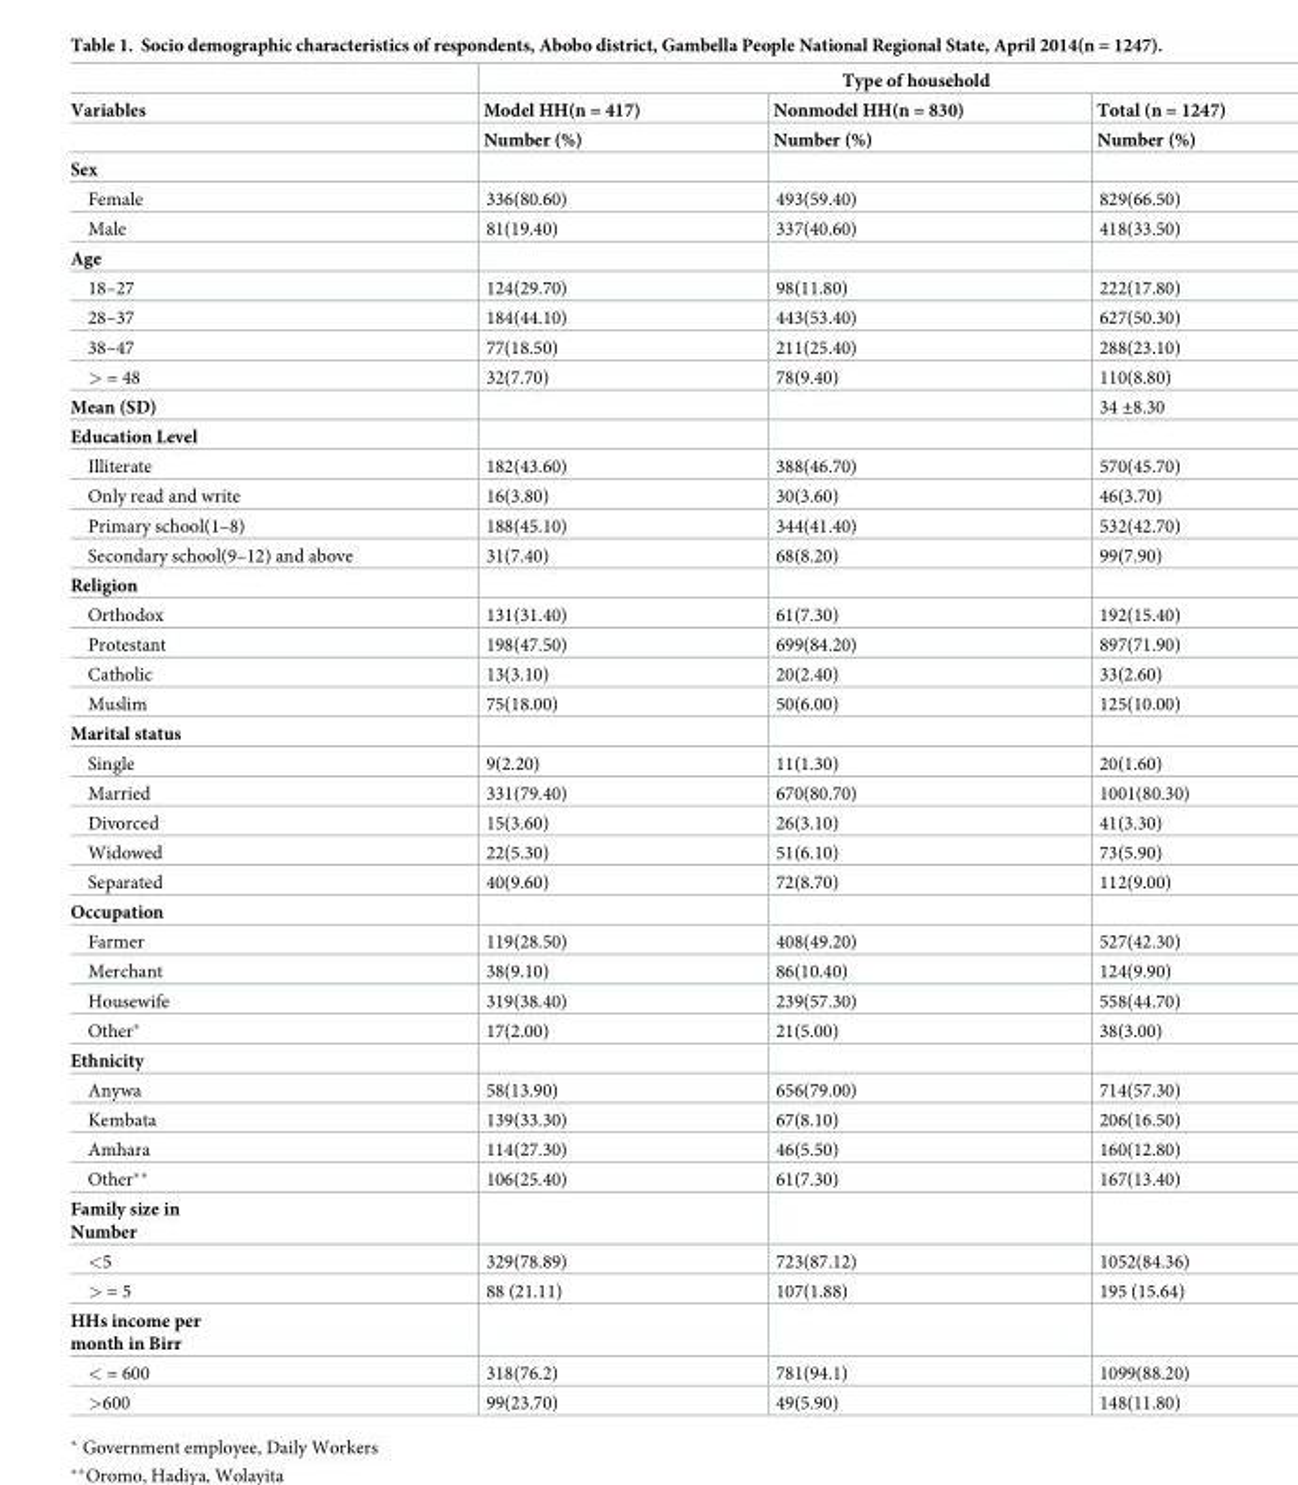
<table><thead><tr><td rowspan="3">Variables</td><td colspan="3">Type of household</td></tr><tr><td rowspan="2">Model HH(n = 417) Number (%)</td><td rowspan="2">Nonmodel HH(n = 830) Number (%)</td><td rowspan="2">Total (n = 1247) Number (%)</td></tr><tr></tr></thead><tbody><tr><td colspan="4">Sex</td></tr><tr><td>Female</td><td>336(80.60)</td><td>493(59.40)</td><td>829(66.50)</td></tr><tr><td>Male</td><td>81(19.40)</td><td>337(40.60)</td><td>418(33.50)</td></tr><tr><td colspan="4">Age</td></tr><tr><td>18–27</td><td>124(29.70)</td><td>98(11.80)</td><td>222(17.80)</td></tr><tr><td>28–37</td><td>184(44.10)</td><td>443(53.40)</td><td>627(50.30)</td></tr><tr><td>38–47</td><td>77(18.50)</td><td>211(25.40)</td><td>288(23.10)</td></tr><tr><td>&gt; = 48</td><td>32(7.70)</td><td>78(9.40)</td><td>110(8.80)</td></tr><tr><td>Mean (SD)</td><td></td><td></td><td>34 ±8.30</td></tr><tr><td colspan="4">Education Level</td></tr><tr><td>Illiterate</td><td>182(43.60)</td><td>388(46.70)</td><td>570(45.70)</td></tr><tr><td>Only read and write</td><td>16(3.80)</td><td>30(3.60)</td><td>46(3.70)</td></tr><tr><td>Primary school(1–8)</td><td>188(45.10)</td><td>344(41.40)</td><td>532(42.70)</td></tr><tr><td>Secondary school(9–12) and above</td><td>31(7.40)</td><td>68(8.20)</td><td>99(7.90)</td></tr><tr><td colspan="4">Religion</td></tr><tr><td>Orthodox</td><td>131(31.40)</td><td>61(7.30)</td><td>192(15.40)</td></tr><tr><td>Protestant</td><td>198(47.50)</td><td>699(84.20)</td><td>897(71.90)</td></tr><tr><td>Catholic</td><td>13(3.10)</td><td>20(2.40)</td><td>33(2.60)</td></tr><tr><td>Muslim</td><td>75(18.00)</td><td>50(6.00)</td><td>125(10.00)</td></tr><tr><td colspan="4">Marital status</td></tr><tr><td>Single</td><td>9(2.20)</td><td>11(1.30)</td><td>20(1.60)</td></tr><tr><td>Married</td><td>331(79.40)</td><td>670(80.70)</td><td>1001(80.30)</td></tr><tr><td>Divorced</td><td>15(3.60)</td><td>26(3.10)</td><td>41(3.30)</td></tr><tr><td>Widowed</td><td>22(5.30)</td><td>51(6.10)</td><td>73(5.90)</td></tr><tr><td>Separated</td><td>40(9.60)</td><td>72(8.70)</td><td>112(9.00)</td></tr><tr><td colspan="4">Occupation</td></tr><tr><td>Farmer</td><td>119(28.50)</td><td>408(49.20)</td><td>527(42.30)</td></tr><tr><td>Merchant</td><td>38(9.10)</td><td>86(10.40)</td><td>124(9.90)</td></tr><tr><td>Housewife</td><td>319(38.40)</td><td>239(57.30)</td><td>558(44.70)</td></tr><tr><td>Other*</td><td>17(2.00)</td><td>21(5.00)</td><td>38(3.00)</td></tr><tr><td colspan="4">Ethnicity</td></tr><tr><td>Anywa</td><td>58(13.90)</td><td>656(79.00)</td><td>714(57.30)</td></tr><tr><td>Kembata</td><td>139(33.30)</td><td>67(8.10)</td><td>206(16.50)</td></tr><tr><td>Amhara</td><td>114(27.30)</td><td>46(5.50)</td><td>160(12.80)</td></tr><tr><td>Other**</td><td>106(25.40)</td><td>61(7.30)</td><td>167(13.40)</td></tr><tr><td colspan="4">Family size in Number</td></tr><tr><td>&lt;5</td><td>329(78.89)</td><td>723(87.12)</td><td>1052(84.36)</td></tr><tr><td>&gt; = 5</td><td>88 (21.11)</td><td>107(1.88)</td><td>195 (15.64)</td></tr><tr><td colspan="4">HHs income per month in Birr</td></tr><tr><td>&lt; = 600</td><td>318(76.2)</td><td>781(94.1)</td><td>1099(88.20)</td></tr><tr><td>&gt;600</td><td>99(23.70)</td><td>49(5.90)</td><td>148(11.80)</td></tr></tbody></table>